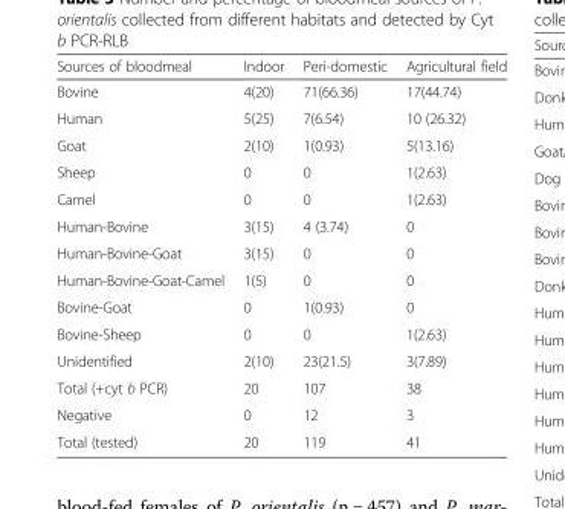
<table><thead><tr><td>Sources of bloodmeal</td><td>Indoor</td><td>Peri-domestic</td><td>Agricultural field</td></tr></thead><tbody><tr><td>Bovine</td><td>4(20)</td><td>71(66.36)</td><td>17(44.74)</td></tr><tr><td>Human</td><td>5(25)</td><td>7(6.54)</td><td>10 (26.32)</td></tr><tr><td>Goat</td><td>2(10)</td><td>1(0.93)</td><td>5(13.16)</td></tr><tr><td>Sheep</td><td>0</td><td>0</td><td>1(2.63)</td></tr><tr><td>Camel</td><td>0</td><td>0</td><td>1(2.63)</td></tr><tr><td>Human-Bovine</td><td>3(15)</td><td>4 (3.74)</td><td>0</td></tr><tr><td>Human-Bovine-Goat</td><td>3(15)</td><td>0</td><td>0</td></tr><tr><td>Human-Bovine-Goat-Camel</td><td>1(5)</td><td>0</td><td>0</td></tr><tr><td>Bovine-Goat</td><td>0</td><td>1(0.93)</td><td>0</td></tr><tr><td>Bovine-Sheep</td><td>0</td><td>0</td><td>1(2.63)</td></tr><tr><td>Unidentified</td><td>2(10)</td><td>23(21.5)</td><td>3(7.89)</td></tr><tr><td>Total (+cyt b PCR)</td><td>20</td><td>107</td><td>38</td></tr><tr><td>Negative</td><td>0</td><td>12</td><td>3</td></tr><tr><td>Total (tested)</td><td>20</td><td>119</td><td>41</td></tr></tbody></table>